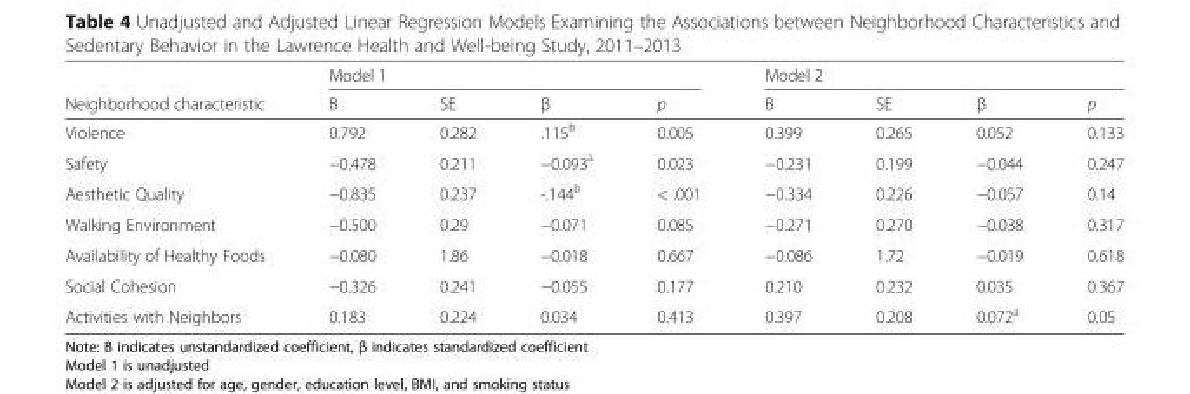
<table><thead><tr><td rowspan="2">Neighborhood characteristic</td><td colspan="4">Model 1</td><td colspan="4">Model 2</td></tr><tr><td>B</td><td>SE</td><td>β</td><td>p</td><td>B</td><td>SE</td><td>β</td><td>p</td></tr></thead><tbody><tr><td>Violence</td><td>0.792</td><td>0.282</td><td>.115<sup>b</sup></td><td>0.005</td><td>0.399</td><td>0.265</td><td>0.052</td><td>0.133</td></tr><tr><td>Safety</td><td>−0.478</td><td>0.211</td><td>−0.093<sup>a</sup></td><td>0.023</td><td>−0.231</td><td>0.199</td><td>−0.044</td><td>0.247</td></tr><tr><td>Aesthetic Quality</td><td>−0.835</td><td>0.237</td><td>-.144<sup>b</sup></td><td>&lt; .001</td><td>−0.334</td><td>0.226</td><td>−0.057</td><td>0.14</td></tr><tr><td>Walking Environment</td><td>−0.500</td><td>0.29</td><td>−0.071</td><td>0.085</td><td>−0.271</td><td>0.270</td><td>−0.038</td><td>0.317</td></tr><tr><td>Availability of Healthy Foods</td><td>−0.080</td><td>1.86</td><td>−0.018</td><td>0.667</td><td>−0.086</td><td>1.72</td><td>−0.019</td><td>0.618</td></tr><tr><td>Social Cohesion</td><td>−0.326</td><td>0.241</td><td>−0.055</td><td>0.177</td><td>0.210</td><td>0.232</td><td>0.035</td><td>0.367</td></tr><tr><td>Activities with Neighbors</td><td>0.183</td><td>0.224</td><td>0.034</td><td>0.413</td><td>0.397</td><td>0.208</td><td>0.072<sup>a</sup></td><td>0.05</td></tr></tbody></table>